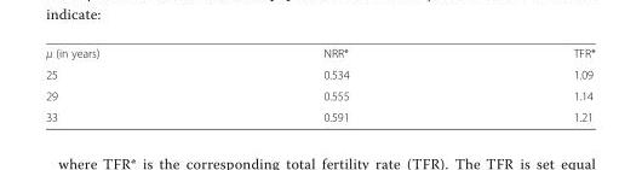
<table><tbody><tr><td>μ (in years)</td><td>NRR*</td><td>TFR*</td></tr><tr><td>25</td><td>0.534</td><td>1.09</td></tr><tr><td>29</td><td>0.555</td><td>1.14</td></tr><tr><td>33</td><td>0.591</td><td>1.21</td></tr></tbody></table>